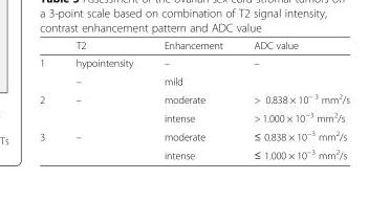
<table><thead><tr><td></td><td>T2</td><td>Enhancement</td><td>ADC value</td></tr></thead><tbody><tr><td rowspan="2">1</td><td>hypointensity</td><td>–</td><td rowspan="2">–</td></tr><tr><td>–</td><td>mild</td></tr><tr><td rowspan="2">2</td><td rowspan="2">–</td><td>moderate</td><td>&gt; 0.838 × 10<sup>− 3</sup> mm<sup>2</sup>/s</td></tr><tr><td>intense</td><td>&gt; 1.000 × 10<sup>−3</sup> mm<sup>2</sup>/s</td></tr><tr><td rowspan="2">3</td><td rowspan="2">–</td><td>moderate</td><td>≤ 0.838 × 10<sup>−3</sup> mm<sup>2</sup>/s</td></tr><tr><td>intense</td><td>≤ 1.000 × 10<sup>−3</sup> mm<sup>2</sup>/s</td></tr></tbody></table>